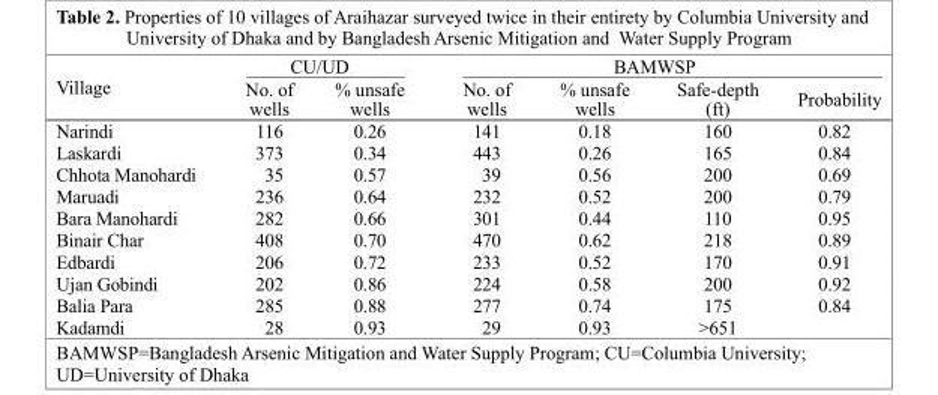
<table><thead><tr><td rowspan="2">Village</td><td colspan="2">CU/UD</td><td colspan="4">BAMWSP</td></tr><tr><td>No. of wells</td><td>% unsafe wells</td><td>No. of wells</td><td>% unsafe wells</td><td>Safe-depth (ft)</td><td>Probability</td></tr></thead><tbody><tr><td>Narindi</td><td>116</td><td>0.26</td><td>141</td><td>0.18</td><td>160</td><td>0.82</td></tr><tr><td>Laskardi</td><td>373</td><td>0.34</td><td>443</td><td>0.26</td><td>165</td><td>0.84</td></tr><tr><td>Chhota Manohardi</td><td>35</td><td>0.57</td><td>39</td><td>0.56</td><td>200</td><td>0.69</td></tr><tr><td>Maruadi</td><td>236</td><td>0.64</td><td>232</td><td>0.52</td><td>200</td><td>0.79</td></tr><tr><td>Bara Manohardi</td><td>282</td><td>0.66</td><td>301</td><td>0.44</td><td>110</td><td>0.95</td></tr><tr><td>Binair Char</td><td>408</td><td>0.70</td><td>470</td><td>0.62</td><td>218</td><td>0.89</td></tr><tr><td>Edbardi</td><td>206</td><td>0.72</td><td>233</td><td>0.52</td><td>170</td><td>0.91</td></tr><tr><td>Ujan Gobindi</td><td>202</td><td>0.86</td><td>224</td><td>0.58</td><td>200</td><td>0.92</td></tr><tr><td>Balia Para</td><td>285</td><td>0.88</td><td>277</td><td>0.74</td><td>175</td><td>0.84</td></tr><tr><td>Kadamdi</td><td>28</td><td>0.93</td><td>29</td><td>0.93</td><td>&gt;651</td><td></td></tr></tbody></table>